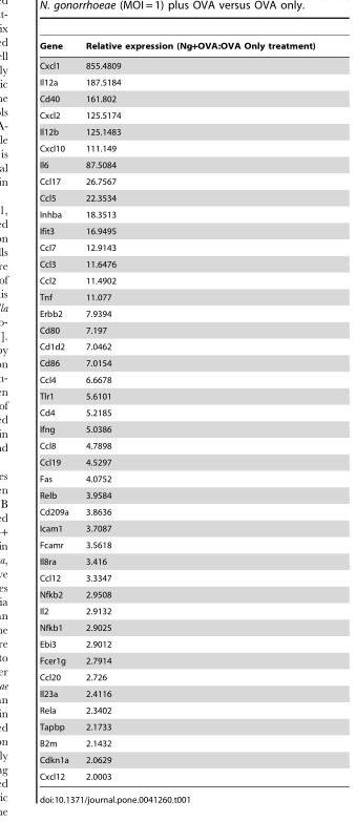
<table><thead><tr><td>Gene</td><td>Relative expression (Ng+OVA:OVA Only treatment)</td></tr></thead><tbody><tr><td>Cxcl1</td><td>855.4809</td></tr><tr><td>Il12a</td><td>187.5184</td></tr><tr><td>Cd40</td><td>161.802</td></tr><tr><td>Cxcl2</td><td>125.5174</td></tr><tr><td>Il12b</td><td>125.1483</td></tr><tr><td>Cxcl10</td><td>111.149</td></tr><tr><td>Il6</td><td>87.5084</td></tr><tr><td>Ccl17</td><td>26.7567</td></tr><tr><td>Ccl5</td><td>22.3534</td></tr><tr><td>Inhba</td><td>18.3513</td></tr><tr><td>Ifit3</td><td>16.9495</td></tr><tr><td>Ccl7</td><td>12.9143</td></tr><tr><td>Ccl3</td><td>11.6476</td></tr><tr><td>Ccl2</td><td>11.4902</td></tr><tr><td>Tnf</td><td>11.077</td></tr><tr><td>Erbb2</td><td>7.9394</td></tr><tr><td>Cd80</td><td>7.197</td></tr><tr><td>Cd1d2</td><td>7.0462</td></tr><tr><td>Cd86</td><td>7.0154</td></tr><tr><td>Ccl4</td><td>6.6678</td></tr><tr><td>Tlr1</td><td>5.6101</td></tr><tr><td>Cd4</td><td>5.2185</td></tr><tr><td>Ifng</td><td>5.0386</td></tr><tr><td>Ccl8</td><td>4.7898</td></tr><tr><td>Ccl19</td><td>4.5297</td></tr><tr><td>Fas</td><td>4.0752</td></tr><tr><td>Relb</td><td>3.9584</td></tr><tr><td>Cd209a</td><td>3.8636</td></tr><tr><td>Icam1</td><td>3.7087</td></tr><tr><td>Fcamr</td><td>3.5618</td></tr><tr><td>Il8ra</td><td>3.416</td></tr><tr><td>Ccl12</td><td>3.3347</td></tr><tr><td>Nfkb2</td><td>2.9508</td></tr><tr><td>Il2</td><td>2.9132</td></tr><tr><td>Nfkb1</td><td>2.9025</td></tr><tr><td>Ebi3</td><td>2.9012</td></tr><tr><td>Fcer1g</td><td>2.7914</td></tr><tr><td>Ccl20</td><td>2.726</td></tr><tr><td>Il23a</td><td>2.4116</td></tr><tr><td>Rela</td><td>2.3402</td></tr><tr><td>Tapbp</td><td>2.1733</td></tr><tr><td>B2m</td><td>2.1432</td></tr><tr><td>Cdkn1a</td><td>2.0629</td></tr><tr><td>Cxcl12</td><td>2.0003</td></tr></tbody></table>